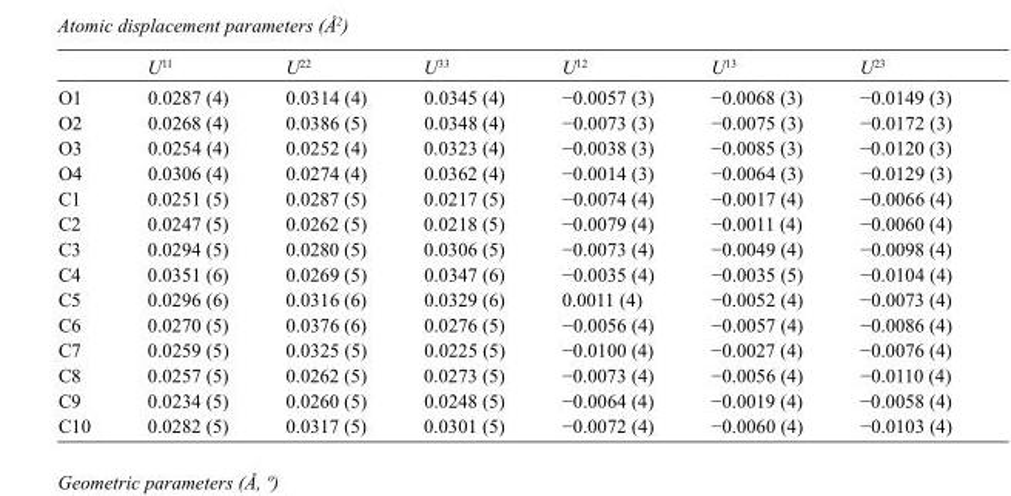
<table><thead><tr><td></td><td>U<sup>11</sup></td><td>U<sup>22</sup></td><td>U<sup>33</sup></td><td>U<sup>12</sup></td><td>U<sup>13</sup></td><td>U<sup>23</sup></td></tr></thead><tbody><tr><td>O1</td><td>0.0287 (4)</td><td>0.0314 (4)</td><td>0.0345 (4)</td><td>−0.0057 (3)</td><td>−0.0068 (3)</td><td>−0.0149 (3)</td></tr><tr><td>O2</td><td>0.0268 (4)</td><td>0.0386 (5)</td><td>0.0348 (4)</td><td>−0.0073 (3)</td><td>−0.0075 (3)</td><td>−0.0172 (3)</td></tr><tr><td>O3</td><td>0.0254 (4)</td><td>0.0252 (4)</td><td>0.0323 (4)</td><td>−0.0038 (3)</td><td>−0.0085 (3)</td><td>−0.0120 (3)</td></tr><tr><td>O4</td><td>0.0306 (4)</td><td>0.0274 (4)</td><td>0.0362 (4)</td><td>−0.0014 (3)</td><td>−0.0064 (3)</td><td>−0.0129 (3)</td></tr><tr><td>C1</td><td>0.0251 (5)</td><td>0.0287 (5)</td><td>0.0217 (5)</td><td>−0.0074 (4)</td><td>−0.0017 (4)</td><td>−0.0066 (4)</td></tr><tr><td>C2</td><td>0.0247 (5)</td><td>0.0262 (5)</td><td>0.0218 (5)</td><td>−0.0079 (4)</td><td>−0.0011 (4)</td><td>−0.0060 (4)</td></tr><tr><td>C3</td><td>0.0294 (5)</td><td>0.0280 (5)</td><td>0.0306 (5)</td><td>−0.0073 (4)</td><td>−0.0049 (4)</td><td>−0.0098 (4)</td></tr><tr><td>C4</td><td>0.0351 (6)</td><td>0.0269 (5)</td><td>0.0347 (6)</td><td>−0.0035 (4)</td><td>−0.0035 (5)</td><td>−0.0104 (4)</td></tr><tr><td>C5</td><td>0.0296 (6)</td><td>0.0316 (6)</td><td>0.0329 (6)</td><td>0.0011 (4)</td><td>−0.0052 (4)</td><td>−0.0073 (4)</td></tr><tr><td>C6</td><td>0.0270 (5)</td><td>0.0376 (6)</td><td>0.0276 (5)</td><td>−0.0056 (4)</td><td>−0.0057 (4)</td><td>−0.0086 (4)</td></tr><tr><td>C7</td><td>0.0259 (5)</td><td>0.0325 (5)</td><td>0.0225 (5)</td><td>−0.0100 (4)</td><td>−0.0027 (4)</td><td>−0.0076 (4)</td></tr><tr><td>C8</td><td>0.0257 (5)</td><td>0.0262 (5)</td><td>0.0273 (5)</td><td>−0.0073 (4)</td><td>−0.0056 (4)</td><td>−0.0110 (4)</td></tr><tr><td>C9</td><td>0.0234 (5)</td><td>0.0260 (5)</td><td>0.0248 (5)</td><td>−0.0064 (4)</td><td>−0.0019 (4)</td><td>−0.0058 (4)</td></tr><tr><td>C10</td><td>0.0282 (5)</td><td>0.0317 (5)</td><td>0.0301 (5)</td><td>−0.0072 (4)</td><td>−0.0060 (4)</td><td>−0.0103 (4)</td></tr></tbody></table>